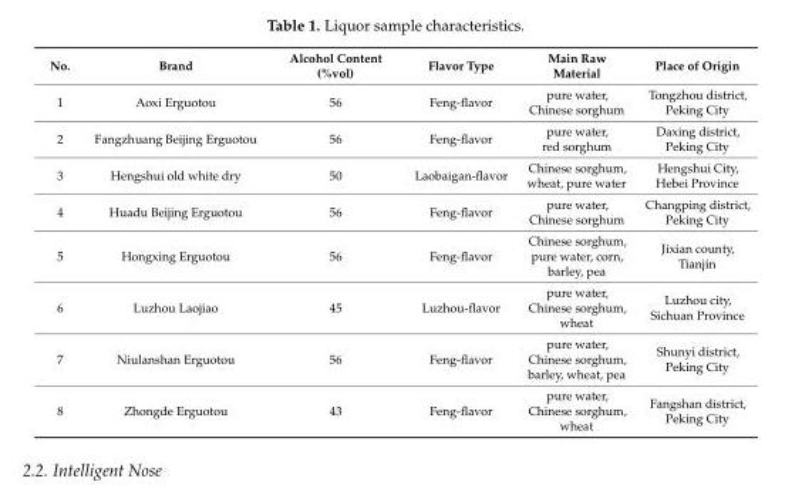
<table><thead><tr><td>No.</td><td>Brand</td><td>Alcohol Content (%vol)</td><td>Flavor Type</td><td>Main Raw Material</td><td>Place of Origin</td></tr></thead><tbody><tr><td>1</td><td>Aoxi Erguotou</td><td>56</td><td>Feng-flavor</td><td>pure water, Chinese sorghum</td><td>Tongzhou district, Peking City</td></tr><tr><td>2</td><td>Fangzhuang Beijing Erguotou</td><td>56</td><td>Feng-flavor</td><td>pure water, red sorghum</td><td>Daxing district, Peking City</td></tr><tr><td>3</td><td>Hengshui old white dry</td><td>50</td><td>Laobaigan-flavor</td><td>Chinese sorghum, wheat, pure water</td><td>Hengshui City, Hebei Province</td></tr><tr><td>4</td><td>Huadu Beijing Erguotou</td><td>56</td><td>Feng-flavor</td><td>pure water, Chinese sorghum</td><td>Changping district, Peking City</td></tr><tr><td>5</td><td>Hongxing Erguotou</td><td>56</td><td>Feng-flavor</td><td>Chinese sorghum, pure water, corn, barley, pea</td><td>Jixian county, Tianjin</td></tr><tr><td>6</td><td>Luzhou Laojiao</td><td>45</td><td>Luzhou-flavor</td><td>pure water, Chinese sorghum, wheat</td><td>Luzhou city, Sichuan Province</td></tr><tr><td>7</td><td>Niulanshan Erguotou</td><td>56</td><td>Feng-flavor</td><td>pure water, Chinese sorghum, barley, wheat, pea</td><td>Shunyi district, Peking City</td></tr><tr><td>8</td><td>Zhongde Erguotou</td><td>43</td><td>Feng-flavor</td><td>pure water, Chinese sorghum, wheat</td><td>Fangshan district, Peking City</td></tr></tbody></table>